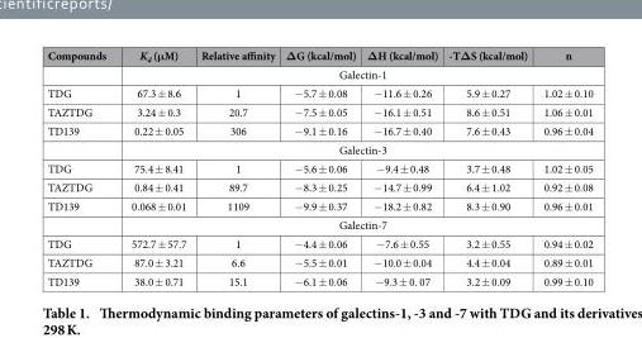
<table><thead><tr><td>Compounds</td><td>K<sub>d</sub> (μM)</td><td>Relative affinity</td><td>ΔG (kcal/mol)</td><td>ΔH (kcal/mol)</td><td>-TΔS (kcal/mol)</td><td>n</td></tr></thead><tbody><tr><td></td><td colspan="6">Galectin-1</td></tr><tr><td>TDG</td><td>67.3 ± 8.6</td><td>1</td><td>− 5.7 ± 0.08</td><td>− 11.6 ± 0.26</td><td>5.9 ± 0.27</td><td>1.02 ± 0.10</td></tr><tr><td>TAZTDG</td><td>3.24 ± 0.3</td><td>20.7</td><td>− 7.5 ± 0.05</td><td>− 16.1 ± 0.51</td><td>8.6 ± 0.51</td><td>1.06 ± 0.01</td></tr><tr><td rowspan="2">TD139</td><td>0.22 ± 0.05</td><td>306</td><td>− 9.1 ± 0.16</td><td>− 16.7 ± 0.40</td><td>7.6 ± 0.43</td><td>0.96 ± 0.04</td></tr><tr><td colspan="6">Galectin-3</td></tr><tr><td>TDG</td><td>75.4 ± 8.41</td><td>1</td><td>− 5.6 ± 0.06</td><td>− 9.4 ± 0.48</td><td>3.7 ± 0.48</td><td>1.02 ± 0.05</td></tr><tr><td>TAZTDG</td><td>0.84 ± 0.41</td><td>89.7</td><td>− 8.3 ± 0.25</td><td>− 14.7 ± 0.99</td><td>6.4 ± 1.02</td><td>0.92 ± 0.08</td></tr><tr><td rowspan="2">TD139</td><td>0.068 ± 0.01</td><td>1109</td><td>− 9.9 ± 0.37</td><td>− 18.2 ± 0.82</td><td>8.3 ± 0.90</td><td>0.96 ± 0.01</td></tr><tr><td colspan="6">Galectin-7</td></tr><tr><td>TDG</td><td>572.7 ± 57.7</td><td>1</td><td>− 4.4 ± 0.06</td><td>− 7.6 ± 0.55</td><td>3.2 ± 0.55</td><td>0.94 ± 0.02</td></tr><tr><td>TAZTDG</td><td>87.0 ± 3.21</td><td>6.6</td><td>− 5.5 ± 0.01</td><td>− 10.0 ± 0.04</td><td>4.4 ± 0.04</td><td>0.89 ± 0.01</td></tr><tr><td>TD139</td><td>38.0 ± 0.71</td><td>15.1</td><td>− 6.1 ± 0.06</td><td>− 9.3 ± 0. 07</td><td>3.2 ± 0.09</td><td>0.99 ± 0.10</td></tr></tbody></table>